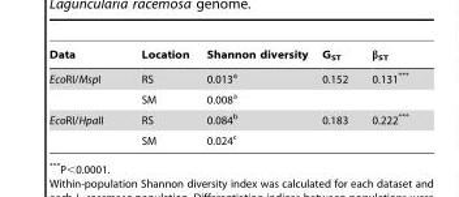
<table><thead><tr><td>Data</td><td>Location</td><td>Shannon diversity</td><td>G<sub>ST</sub></td><td>β<sub>ST</sub></td></tr></thead><tbody><tr><td rowspan="2">EcoRI/MspI</td><td>RS</td><td>0.013<sup>a</sup></td><td>0.152</td><td>0.131***</td></tr><tr><td>SM</td><td>0.008<sup>a</sup></td><td></td><td></td></tr><tr><td rowspan="2">EcoRI/HpaII</td><td>RS</td><td>0.084<sup>b</sup></td><td>0.183</td><td>0.222***</td></tr><tr><td>SM</td><td>0.024<sup>c</sup></td><td></td><td></td></tr></tbody></table>